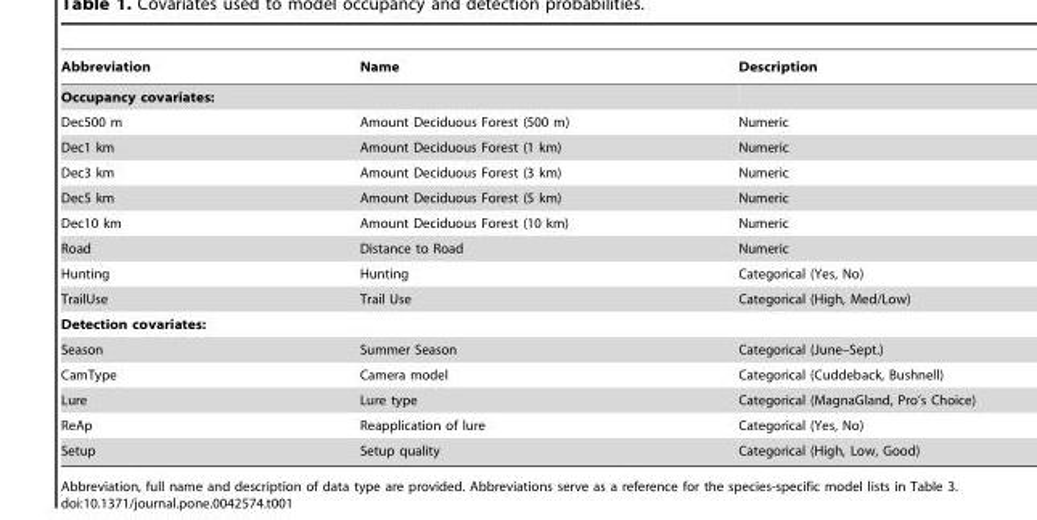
<table><thead><tr><td>Abbreviation</td><td>Name</td><td>Description</td></tr></thead><tbody><tr><td colspan="3">Occupancy covariates:</td></tr><tr><td>Dec500 m</td><td>Amount Deciduous Forest (500 m)</td><td>Numeric</td></tr><tr><td>Dec1 km</td><td>Amount Deciduous Forest (1 km)</td><td>Numeric</td></tr><tr><td>Dec3 km</td><td>Amount Deciduous Forest (3 km)</td><td>Numeric</td></tr><tr><td>Dec5 km</td><td>Amount Deciduous Forest (5 km)</td><td>Numeric</td></tr><tr><td>Dec10 km</td><td>Amount Deciduous Forest (10 km)</td><td>Numeric</td></tr><tr><td>Road</td><td>Distance to Road</td><td>Numeric</td></tr><tr><td>Hunting</td><td>Hunting</td><td>Categorical (Yes, No)</td></tr><tr><td>TrailUse</td><td>Trail Use</td><td>Categorical (High, Med/Low)</td></tr><tr><td colspan="3">Detection covariates:</td></tr><tr><td>Season</td><td>Summer Season</td><td>Categorical (June–Sept.)</td></tr><tr><td>CamType</td><td>Camera model</td><td>Categorical (Cuddeback, Bushnell)</td></tr><tr><td>Lure</td><td>Lure type</td><td>Categorical (MagnaGland, Pro’s Choice)</td></tr><tr><td>ReAp</td><td>Reapplication of lure</td><td>Categorical (Yes, No)</td></tr><tr><td>Setup</td><td>Setup quality</td><td>Categorical (High, Low, Good)</td></tr></tbody></table>